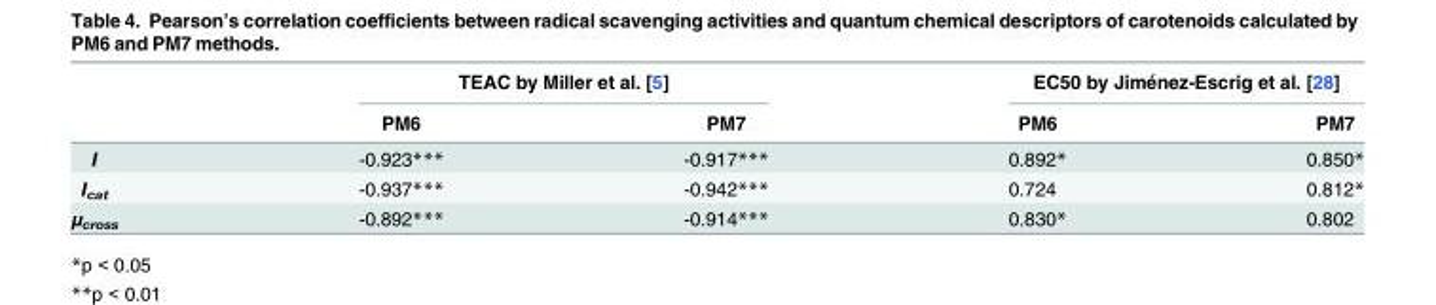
<table><thead><tr><td rowspan="2"></td><td colspan="2">TEAC by Miller et al. [5]</td><td colspan="2">EC50 by Jiménez-Escrig et al. [28]</td></tr><tr><td>PM6</td><td>PM7</td><td>PM6</td><td>PM7</td></tr></thead><tbody><tr><td>I</td><td>-0.923***</td><td>-0.917***</td><td>0.892*</td><td>0.850*</td></tr><tr><td>I<sub>cat</sub></td><td>-0.937***</td><td>-0.942***</td><td>0.724</td><td>0.812*</td></tr><tr><td>μ<sub>cross</sub></td><td>-0.892***</td><td>-0.914***</td><td>0.830*</td><td>0.802</td></tr></tbody></table>